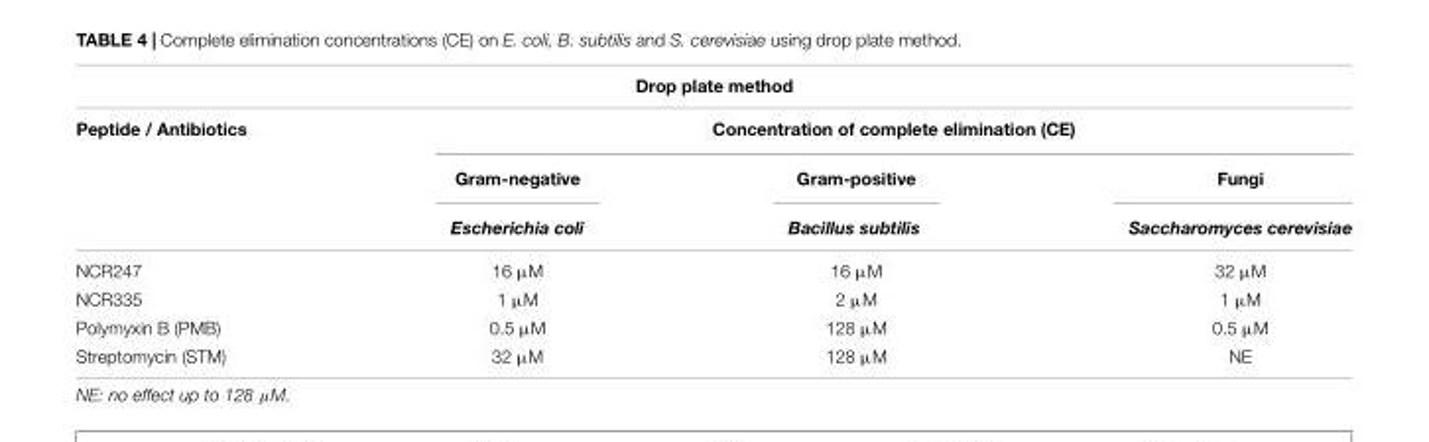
<table><thead><tr><td colspan="4">Drop plate method</td></tr><tr><td rowspan="3">Peptide / Antibiotics</td><td colspan="3">Concentration of complete elimination (CE)</td></tr><tr><td rowspan="2">Gram-negative Escherichia coli</td><td rowspan="2">Gram-positive Bacillus subtilis</td><td rowspan="2">Fungi Saccharomyces cerevisiae</td></tr><tr></tr></thead><tbody><tr><td>NCR247</td><td>16 µM</td><td>16 µM</td><td>32 µM</td></tr><tr><td>NCR335</td><td>1 µM</td><td>2 µM</td><td>1 µM</td></tr><tr><td>Polymyxin B (PMB)</td><td>0.5 µM</td><td>128 µM</td><td>0.5 µM</td></tr><tr><td>Streptomycin (STM)</td><td>32 µM</td><td>128 µM</td><td>NE</td></tr></tbody></table>